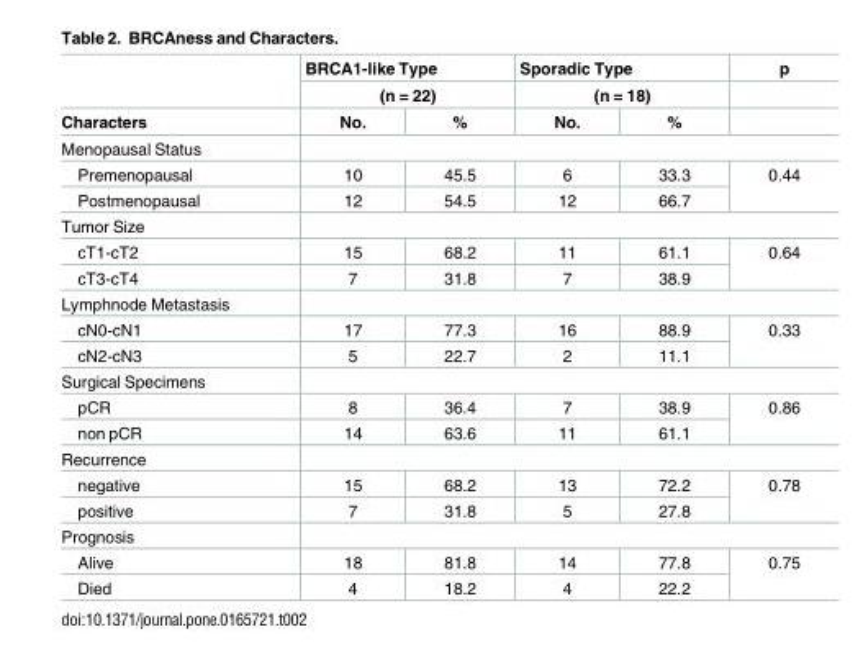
<table><thead><tr><td rowspan="3">Characters</td><td rowspan="2" colspan="2">BRCA1-like Type (n = 22)</td><td rowspan="2" colspan="2">Sporadic Type (n = 18)</td><td rowspan="3">p</td></tr><tr></tr><tr><td>No.</td><td>%</td><td>No.</td><td>%</td></tr></thead><tbody><tr><td colspan="6">Menopausal Status</td></tr><tr><td>Premenopausal</td><td>10</td><td>45.5</td><td>6</td><td>33.3</td><td rowspan="2">0.44</td></tr><tr><td>Postmenopausal</td><td>12</td><td>54.5</td><td>12</td><td>66.7</td></tr><tr><td colspan="6">Tumor Size</td></tr><tr><td>cT1-cT2</td><td>15</td><td>68.2</td><td>11</td><td>61.1</td><td rowspan="2">0.64</td></tr><tr><td>cT3-cT4</td><td>7</td><td>31.8</td><td>7</td><td>38.9</td></tr><tr><td colspan="6">Lymphnode Metastasis</td></tr><tr><td>cN0-cN1</td><td>17</td><td>77.3</td><td>16</td><td>88.9</td><td rowspan="2">0.33</td></tr><tr><td>cN2-cN3</td><td>5</td><td>22.7</td><td>2</td><td>11.1</td></tr><tr><td colspan="6">Surgical Specimens</td></tr><tr><td>pCR</td><td>8</td><td>36.4</td><td>7</td><td>38.9</td><td rowspan="2">0.86</td></tr><tr><td>non pCR</td><td>14</td><td>63.6</td><td>11</td><td>61.1</td></tr><tr><td colspan="6">Recurrence</td></tr><tr><td>negative</td><td>15</td><td>68.2</td><td>13</td><td>72.2</td><td rowspan="2">0.78</td></tr><tr><td>positive</td><td>7</td><td>31.8</td><td>5</td><td>27.8</td></tr><tr><td colspan="6">Prognosis</td></tr><tr><td>Alive</td><td>18</td><td>81.8</td><td>14</td><td>77.8</td><td rowspan="2">0.75</td></tr><tr><td>Died</td><td>4</td><td>18.2</td><td>4</td><td>22.2</td></tr></tbody></table>